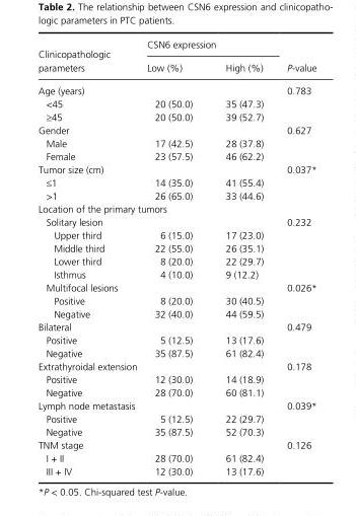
<table><thead><tr><td rowspan="2">Clinicopathologic parameters</td><td colspan="2">CSN6 expression</td><td rowspan="2">P- value</td></tr><tr><td>Low (%)</td><td>High (%)</td></tr></thead><tbody><tr><td>Age (years)</td><td></td><td></td><td>0.783</td></tr><tr><td>&lt;45</td><td>20 (50.0)</td><td>35 (47.3)</td><td></td></tr><tr><td>≥45</td><td>20 (50.0)</td><td>39 (52.7)</td><td></td></tr><tr><td>Gender</td><td></td><td></td><td>0.627</td></tr><tr><td>Male</td><td>17 (42.5)</td><td>28 (37.8)</td><td></td></tr><tr><td>Female</td><td>23 (57.5)</td><td>46 (62.2)</td><td></td></tr><tr><td>Tumor size (cm)</td><td></td><td></td><td>0.037*</td></tr><tr><td>≤1</td><td>14 (35.0)</td><td>41 (55.4)</td><td></td></tr><tr><td>&gt;1</td><td>26 (65.0)</td><td>33 (44.6)</td><td></td></tr><tr><td colspan="4">Location of the primary tumors</td></tr><tr><td>Solitary lesion</td><td></td><td></td><td>0.232</td></tr><tr><td>Upper third</td><td>6 (15.0)</td><td>17 (23.0)</td><td></td></tr><tr><td>Middle third</td><td>22 (55.0)</td><td>26 (35.1)</td><td></td></tr><tr><td>Lower third</td><td>8 (20.0)</td><td>22 (29.7)</td><td></td></tr><tr><td>Isthmus</td><td>4 (10.0)</td><td>9 (12.2)</td><td></td></tr><tr><td>Multifocal lesions</td><td></td><td></td><td>0.026*</td></tr><tr><td>Positive</td><td>8 (20.0)</td><td>30 (40.5)</td><td></td></tr><tr><td>Negative</td><td>32 (40.0)</td><td>44 (59.5)</td><td></td></tr><tr><td>Bilateral</td><td></td><td></td><td>0.479</td></tr><tr><td>Positive</td><td>5 (12.5)</td><td>13 (17.6)</td><td></td></tr><tr><td>Negative</td><td>35 (87.5)</td><td>61 (82.4)</td><td></td></tr><tr><td>Extrathyroidal extension</td><td></td><td></td><td>0.178</td></tr><tr><td>Positive</td><td>12 (30.0)</td><td>14 (18.9)</td><td></td></tr><tr><td>Negative</td><td>28 (70.0)</td><td>60 (81.1)</td><td></td></tr><tr><td>Lymph node metastasis</td><td></td><td></td><td>0.039*</td></tr><tr><td>Positive</td><td>5 (12.5)</td><td>22 (29.7)</td><td></td></tr><tr><td>Negative</td><td>35 (87.5)</td><td>52 (70.3)</td><td></td></tr><tr><td>TNM stage</td><td></td><td></td><td>0.126</td></tr><tr><td>I + II</td><td>28 (70.0)</td><td>61 (82.4)</td><td></td></tr><tr><td>III + IV</td><td>12 (30.0)</td><td>13 (17.6)</td><td></td></tr></tbody></table>